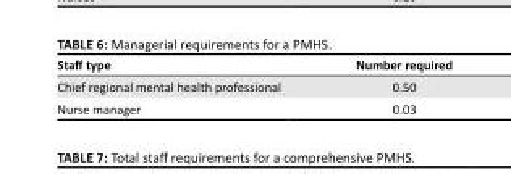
<table><thead><tr><td>Staff type</td><td>Number required</td></tr></thead><tbody><tr><td>Chief regional mental health professional</td><td>0.50</td></tr><tr><td>Nurse manager</td><td>0.03</td></tr></tbody></table>